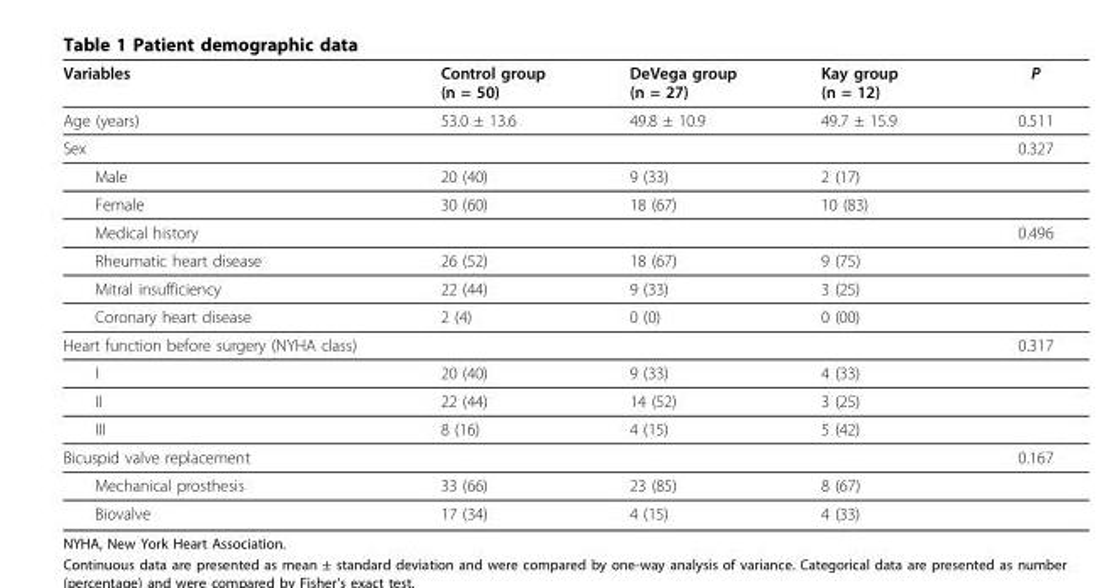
<table><thead><tr><td>Variables</td><td>Control group (n = 50)</td><td>DeVega group (n = 27)</td><td>Kay group (n = 12)</td><td>P</td></tr></thead><tbody><tr><td>Age (years)</td><td>53.0 ± 13.6</td><td>49.8 ± 10.9</td><td>49.7 ± 15.9</td><td>0.511</td></tr><tr><td>Sex</td><td></td><td></td><td></td><td>0.327</td></tr><tr><td>Male</td><td>20 (40)</td><td>9 (33)</td><td>2 (17)</td><td></td></tr><tr><td>Female</td><td>30 (60)</td><td>18 (67)</td><td>10 (83)</td><td></td></tr><tr><td>Medical history</td><td></td><td></td><td></td><td>0.496</td></tr><tr><td>Rheumatic heart disease</td><td>26 (52)</td><td>18 (67)</td><td>9 (75)</td><td></td></tr><tr><td>Mitral insufficiency</td><td>22 (44)</td><td>9 (33)</td><td>3 (25)</td><td></td></tr><tr><td>Coronary heart disease</td><td>2 (4)</td><td>0 (0)</td><td>0 (00)</td><td></td></tr><tr><td>Heart function before surgery (NYHA class)</td><td></td><td></td><td></td><td>0.317</td></tr><tr><td>I</td><td>20 (40)</td><td>9 (33)</td><td>4 (33)</td><td></td></tr><tr><td>II</td><td>22 (44)</td><td>14 (52)</td><td>3 (25)</td><td></td></tr><tr><td>III</td><td>8 (16)</td><td>4 (15)</td><td>5 (42)</td><td></td></tr><tr><td>Bicuspid valve replacement</td><td></td><td></td><td></td><td>0.167</td></tr><tr><td>Mechanical prosthesis</td><td>33 (66)</td><td>23 (85)</td><td>8 (67)</td><td></td></tr><tr><td>Biovalve</td><td>17 (34)</td><td>4 (15)</td><td>4 (33)</td><td></td></tr></tbody></table>